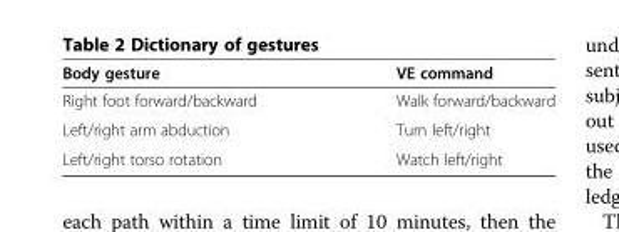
<table><thead><tr><td>Body gesture</td><td>VE command</td></tr></thead><tbody><tr><td>Right foot forward/backward</td><td>Walk forward/backward</td></tr><tr><td>Left/right arm abduction</td><td>Turn left/right</td></tr><tr><td>Left/right torso rotation</td><td>Watch left/right</td></tr></tbody></table>